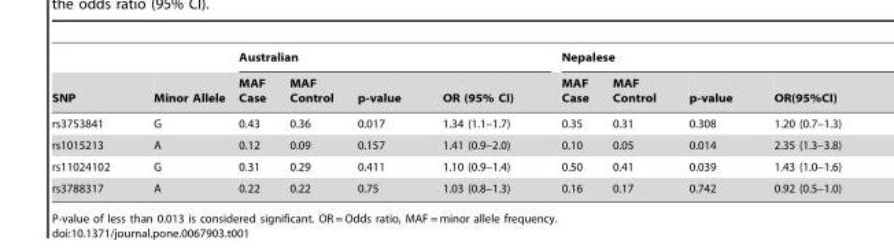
<table><thead><tr><td rowspan="2">SNP</td><td rowspan="2">Minor Allele</td><td colspan="4">Australian</td><td colspan="4">Nepalese</td></tr><tr><td>MAF Case</td><td>MAF Control</td><td>p-value</td><td>OR (95% CI)</td><td>MAF Case</td><td>MAF Control</td><td>p-value</td><td>OR(95%CI)</td></tr></thead><tbody><tr><td>rs3753841</td><td>G</td><td>0.43</td><td>0.36</td><td>0.017</td><td>1.34 (1.1–1.7)</td><td>0.35</td><td>0.31</td><td>0.308</td><td>1.20 (0.7–1.3)</td></tr><tr><td>rs1015213</td><td>A</td><td>0.12</td><td>0.09</td><td>0.157</td><td>1.41 (0.9–2.0)</td><td>0.10</td><td>0.05</td><td>0.014</td><td>2.35 (1.3–3.8)</td></tr><tr><td>rs11024102</td><td>G</td><td>0.31</td><td>0.29</td><td>0.411</td><td>1.10 (0.9–1.4)</td><td>0.50</td><td>0.41</td><td>0.039</td><td>1.43 (1.0–1.6)</td></tr><tr><td>rs3788317</td><td>A</td><td>0.22</td><td>0.22</td><td>0.75</td><td>1.03 (0.8–1.3)</td><td>0.16</td><td>0.17</td><td>0.742</td><td>0.92 (0.5–1.0)</td></tr></tbody></table>